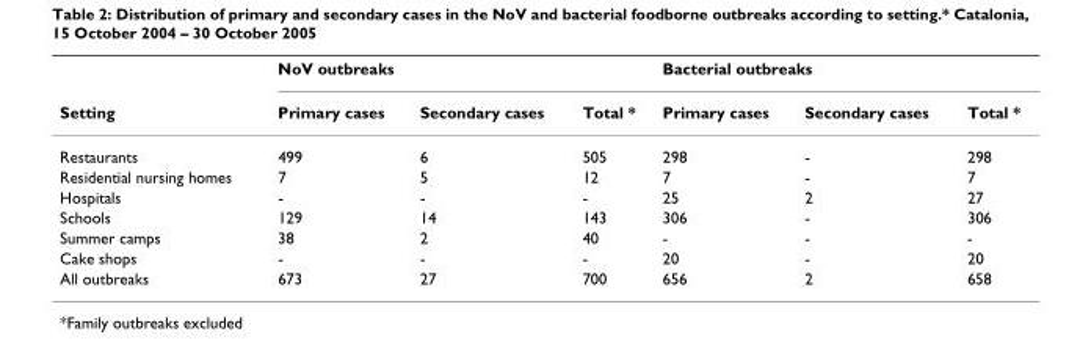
<table><thead><tr><td rowspan="2">Setting</td><td colspan="3">NoV outbreaks</td><td colspan="3">Bacterial outbreaks</td></tr><tr><td>Primary cases</td><td>Secondary cases</td><td>Total *</td><td>Primary cases</td><td>Secondary cases</td><td>Total *</td></tr></thead><tbody><tr><td>Restaurants</td><td>499</td><td>6</td><td>505</td><td>298</td><td>-</td><td>298</td></tr><tr><td>Residential nursing homes</td><td>7</td><td>5</td><td>12</td><td>7</td><td>-</td><td>7</td></tr><tr><td>Hospitals</td><td>-</td><td>-</td><td>-</td><td>25</td><td>2</td><td>27</td></tr><tr><td>Schools</td><td>129</td><td>14</td><td>143</td><td>306</td><td>-</td><td>306</td></tr><tr><td>Summer camps</td><td>38</td><td>2</td><td>40</td><td>-</td><td>-</td><td>-</td></tr><tr><td>Cake shops</td><td>-</td><td>-</td><td>-</td><td>20</td><td>-</td><td>20</td></tr><tr><td>All outbreaks</td><td>673</td><td>27</td><td>700</td><td>656</td><td>2</td><td>658</td></tr></tbody></table>